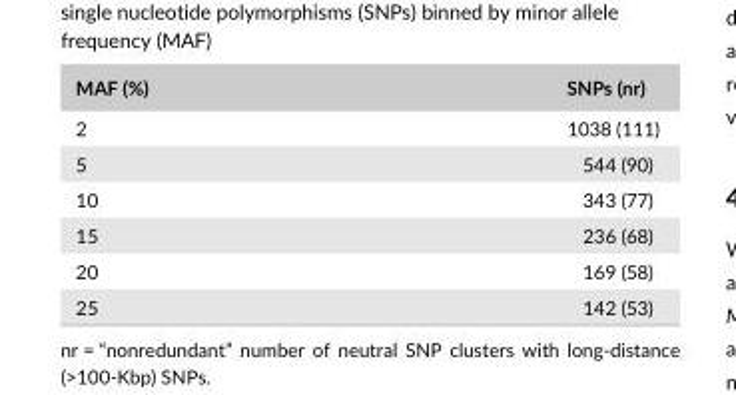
<table><thead><tr><td>MAF (%)</td><td>SNPs (nr)</td></tr></thead><tbody><tr><td>2</td><td>1038 (111)</td></tr><tr><td>5</td><td>544 (90)</td></tr><tr><td>10</td><td>343 (77)</td></tr><tr><td>15</td><td>236 (68)</td></tr><tr><td>20</td><td>169 (58)</td></tr><tr><td>25</td><td>142 (53)</td></tr></tbody></table>